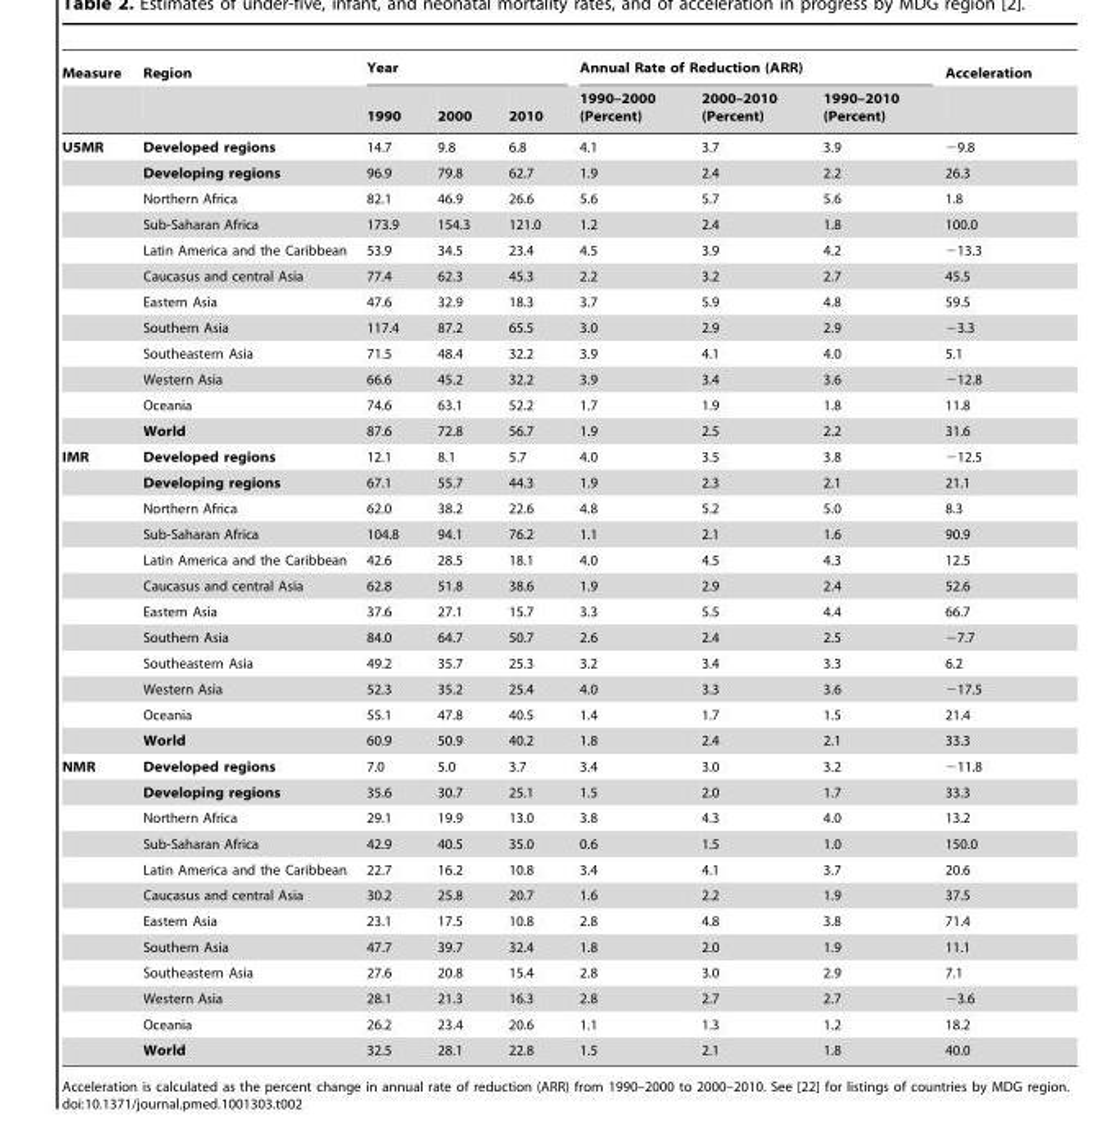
<table><thead><tr><td rowspan="2">Measure</td><td rowspan="2">Region</td><td colspan="3">Year</td><td colspan="3">Annual Rate of Reduction (ARR)</td><td rowspan="2">Acceleration</td></tr><tr><td>1990</td><td>2000</td><td>2010</td><td>1990–2000 (Percent)</td><td>2000–2010 (Percent)</td><td>1990–2010 (Percent)</td></tr></thead><tbody><tr><td rowspan="12">U5MR</td><td>Developed regions</td><td>14.7</td><td>9.8</td><td>6.8</td><td>4.1</td><td>3.7</td><td>3.9</td><td>−9.8</td></tr><tr><td>Developing regions</td><td>96.9</td><td>79.8</td><td>62.7</td><td>1.9</td><td>2.4</td><td>2.2</td><td>26.3</td></tr><tr><td>Northern Africa</td><td>82.1</td><td>46.9</td><td>26.6</td><td>5.6</td><td>5.7</td><td>5.6</td><td>1.8</td></tr><tr><td>Sub-Saharan Africa</td><td>173.9</td><td>154.3</td><td>121.0</td><td>1.2</td><td>2.4</td><td>1.8</td><td>100.0</td></tr><tr><td>Latin America and the Caribbean</td><td>53.9</td><td>34.5</td><td>23.4</td><td>4.5</td><td>3.9</td><td>4.2</td><td>−13.3</td></tr><tr><td>Caucasus and central Asia</td><td>77.4</td><td>62.3</td><td>45.3</td><td>2.2</td><td>3.2</td><td>2.7</td><td>45.5</td></tr><tr><td>Eastern Asia</td><td>47.6</td><td>32.9</td><td>18.3</td><td>3.7</td><td>5.9</td><td>4.8</td><td>59.5</td></tr><tr><td>Southern Asia</td><td>117.4</td><td>87.2</td><td>65.5</td><td>3.0</td><td>2.9</td><td>2.9</td><td>−3.3</td></tr><tr><td>Southeastern Asia</td><td>71.5</td><td>48.4</td><td>32.2</td><td>3.9</td><td>4.1</td><td>4.0</td><td>5.1</td></tr><tr><td>Western Asia</td><td>66.6</td><td>45.2</td><td>32.2</td><td>3.9</td><td>3.4</td><td>3.6</td><td>−12.8</td></tr><tr><td>Oceania</td><td>74.6</td><td>63.1</td><td>52.2</td><td>1.7</td><td>1.9</td><td>1.8</td><td>11.8</td></tr><tr><td>World</td><td>87.6</td><td>72.8</td><td>56.7</td><td>1.9</td><td>2.5</td><td>2.2</td><td>31.6</td></tr><tr><td rowspan="12">IMR</td><td>Developed regions</td><td>12.1</td><td>8.1</td><td>5.7</td><td>4.0</td><td>3.5</td><td>3.8</td><td>−12.5</td></tr><tr><td>Developing regions</td><td>67.1</td><td>55.7</td><td>44.3</td><td>1.9</td><td>2.3</td><td>2.1</td><td>21.1</td></tr><tr><td>Northern Africa</td><td>62.0</td><td>38.2</td><td>22.6</td><td>4.8</td><td>5.2</td><td>5.0</td><td>8.3</td></tr><tr><td>Sub-Saharan Africa</td><td>104.8</td><td>94.1</td><td>76.2</td><td>1.1</td><td>2.1</td><td>1.6</td><td>90.9</td></tr><tr><td>Latin America and the Caribbean</td><td>42.6</td><td>28.5</td><td>18.1</td><td>4.0</td><td>4.5</td><td>4.3</td><td>12.5</td></tr><tr><td>Caucasus and central Asia</td><td>62.8</td><td>51.8</td><td>38.6</td><td>1.9</td><td>2.9</td><td>2.4</td><td>52.6</td></tr><tr><td>Eastern Asia</td><td>37.6</td><td>27.1</td><td>15.7</td><td>3.3</td><td>5.5</td><td>4.4</td><td>66.7</td></tr><tr><td>Southern Asia</td><td>84.0</td><td>64.7</td><td>50.7</td><td>2.6</td><td>2.4</td><td>2.5</td><td>−7.7</td></tr><tr><td>Southeastern Asia</td><td>49.2</td><td>35.7</td><td>25.3</td><td>3.2</td><td>3.4</td><td>3.3</td><td>6.2</td></tr><tr><td>Western Asia</td><td>52.3</td><td>35.2</td><td>25.4</td><td>4.0</td><td>3.3</td><td>3.6</td><td>−17.5</td></tr><tr><td>Oceania</td><td>55.1</td><td>47.8</td><td>40.5</td><td>1.4</td><td>1.7</td><td>1.5</td><td>21.4</td></tr><tr><td>World</td><td>60.9</td><td>50.9</td><td>40.2</td><td>1.8</td><td>2.4</td><td>2.1</td><td>33.3</td></tr><tr><td rowspan="12">NMR</td><td>Developed regions</td><td>7.0</td><td>5.0</td><td>3.7</td><td>3.4</td><td>3.0</td><td>3.2</td><td>−11.8</td></tr><tr><td>Developing regions</td><td>35.6</td><td>30.7</td><td>25.1</td><td>1.5</td><td>2.0</td><td>1.7</td><td>33.3</td></tr><tr><td>Northern Africa</td><td>29.1</td><td>19.9</td><td>13.0</td><td>3.8</td><td>4.3</td><td>4.0</td><td>13.2</td></tr><tr><td>Sub-Saharan Africa</td><td>42.9</td><td>40.5</td><td>35.0</td><td>0.6</td><td>1.5</td><td>1.0</td><td>150.0</td></tr><tr><td>Latin America and the Caribbean</td><td>22.7</td><td>16.2</td><td>10.8</td><td>3.4</td><td>4.1</td><td>3.7</td><td>20.6</td></tr><tr><td>Caucasus and central Asia</td><td>30.2</td><td>25.8</td><td>20.7</td><td>1.6</td><td>2.2</td><td>1.9</td><td>37.5</td></tr><tr><td>Eastern Asia</td><td>23.1</td><td>17.5</td><td>10.8</td><td>2.8</td><td>4.8</td><td>3.8</td><td>71.4</td></tr><tr><td>Southern Asia</td><td>47.7</td><td>39.7</td><td>32.4</td><td>1.8</td><td>2.0</td><td>1.9</td><td>11.1</td></tr><tr><td>Southeastern Asia</td><td>27.6</td><td>20.8</td><td>15.4</td><td>2.8</td><td>3.0</td><td>2.9</td><td>7.1</td></tr><tr><td>Western Asia</td><td>28.1</td><td>21.3</td><td>16.3</td><td>2.8</td><td>2.7</td><td>2.7</td><td>−3.6</td></tr><tr><td>Oceania</td><td>26.2</td><td>23.4</td><td>20.6</td><td>1.1</td><td>1.3</td><td>1.2</td><td>18.2</td></tr><tr><td>World</td><td>32.5</td><td>28.1</td><td>22.8</td><td>1.5</td><td>2.1</td><td>1.8</td><td>40.0</td></tr></tbody></table>